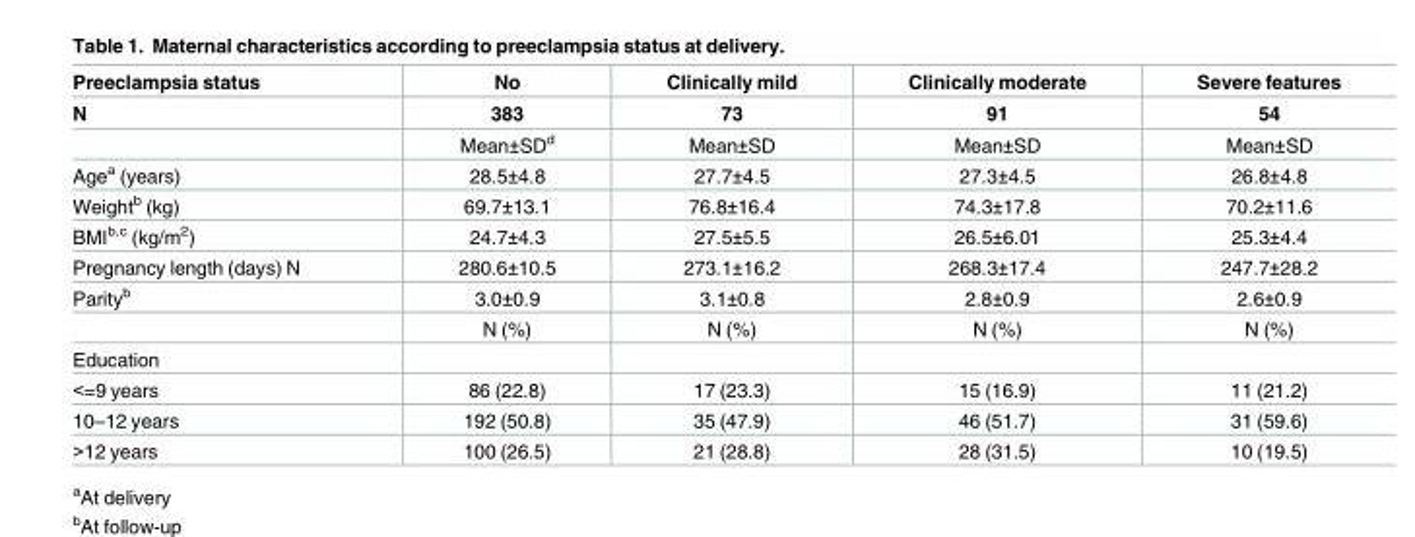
<table><thead><tr><td rowspan="2">Preeclampsia status N</td><td rowspan="2">No 383</td><td rowspan="2">Clinically mild 73</td><td rowspan="2">Clinically moderate 91</td><td rowspan="2">Severe features 54</td></tr><tr></tr></thead><tbody><tr><td></td><td>Mean±SD<sup>d</sup></td><td>Mean±SD</td><td>Mean±SD</td><td>Mean±SD</td></tr><tr><td>Age<sup>a</sup> (years)</td><td>28.5±4.8</td><td>27.7±4.5</td><td>27.3±4.5</td><td>26.8±4.8</td></tr><tr><td>Weight<sup>b</sup> (kg)</td><td>69.7±13.1</td><td>76.8±16.4</td><td>74.3±17.8</td><td>70.2±11.6</td></tr><tr><td>BMI<sup>b,c</sup> (kg/m<sup>2</sup>)</td><td>24.7±4.3</td><td>27.5±5.5</td><td>26.5±6.01</td><td>25.3±4.4</td></tr><tr><td>Pregnancy length (days) N</td><td>280.6±10.5</td><td>273.1±16.2</td><td>268.3±17.4</td><td>247.7±28.2</td></tr><tr><td rowspan="2">Parity<sup>b</sup></td><td>3.0±0.9</td><td>3.1±0.8</td><td>2.8±0.9</td><td>2.6±0.9</td></tr><tr><td>N (%)</td><td>N (%)</td><td>N (%)</td><td>N (%)</td></tr><tr><td colspan="5">Education</td></tr><tr><td>&lt;=9 years</td><td>86 (22.8)</td><td>17 (23.3)</td><td>15 (16.9)</td><td>11 (21.2)</td></tr><tr><td>10–12 years</td><td>192 (50.8)</td><td>35 (47.9)</td><td>46 (51.7)</td><td>31 (59.6)</td></tr><tr><td>&gt;12 years</td><td>100 (26.5)</td><td>21 (28.8)</td><td>28 (31.5)</td><td>10 (19.5)</td></tr></tbody></table>